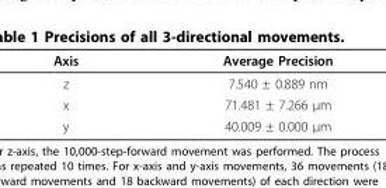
<table><thead><tr><td>Axis</td><td>Average Precision</td></tr></thead><tbody><tr><td>z</td><td>7.540 ± 0.889 nm</td></tr><tr><td>x</td><td>71.481 ± 7.266 μm</td></tr><tr><td>y</td><td>40.009 ± 0.000 μm</td></tr></tbody></table>